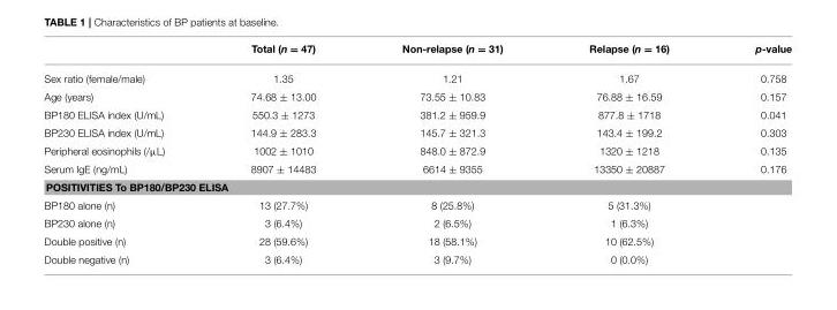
<table><thead><tr><td></td><td>Total (n = 47)</td><td>Non-relapse (n = 31)</td><td>Relapse (n = 16)</td><td>p-value</td></tr></thead><tbody><tr><td>Sex ratio (female/male)</td><td>1.35</td><td>1.21</td><td>1.67</td><td>0.758</td></tr><tr><td>Age (years)</td><td>74.68 ± 13.00</td><td>73.55 ± 10.83</td><td>76.88 ± 16.59</td><td>0.157</td></tr><tr><td>BP180 ELISA index (U/mL)</td><td>550.3 ± 1273</td><td>381.2 ± 959.9</td><td>877.8 ± 1718</td><td>0.041</td></tr><tr><td>BP230 ELISA index (U/mL)</td><td>144.9 ± 283.3</td><td>145.7 ± 321.3</td><td>143.4 ± 199.2</td><td>0.303</td></tr><tr><td>Peripheral eosinophils (/µL)</td><td>1002 ± 1010</td><td>848.0 ± 872.9</td><td>1320 ± 1218</td><td>0.135</td></tr><tr><td>Serum IgE (ng/mL)</td><td>8907 ± 14483</td><td>6614 ± 9355</td><td>13350 ± 20887</td><td>0.176</td></tr><tr><td colspan="5">POSITIVITIES To BP180/BP230 ELISA</td></tr><tr><td>BP180 alone (n)</td><td>13 (27.7%)</td><td>8 (25.8%)</td><td>5 (31.3%)</td><td></td></tr><tr><td>BP230 alone (n)</td><td>3 (6.4%)</td><td>2 (6.5%)</td><td>1 (6.3%)</td><td></td></tr><tr><td>Double positive (n)</td><td>28 (59.6%)</td><td>18 (58.1%)</td><td>10 (62.5%)</td><td></td></tr><tr><td>Double negative (n)</td><td>3 (6.4%)</td><td>3 (9.7%)</td><td>0 (0.0%)</td><td></td></tr></tbody></table>